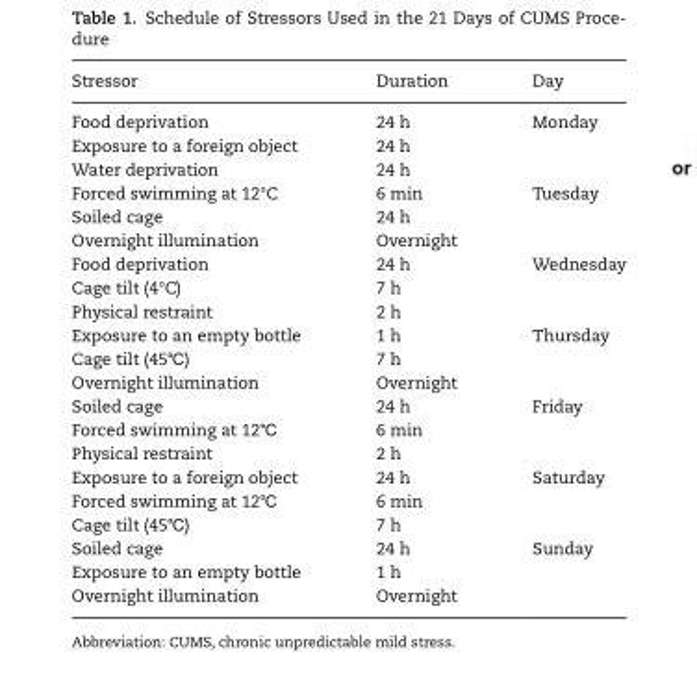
<table><thead><tr><td>Stressor</td><td>Duration</td><td>Day</td></tr></thead><tbody><tr><td>Food deprivation</td><td>24 h</td><td>Monday</td></tr><tr><td>Exposure to a foreign object</td><td>24 h</td><td></td></tr><tr><td>Water deprivation</td><td>24 h</td><td></td></tr><tr><td>Forced swimming at 12°C</td><td>6 min</td><td>Tuesday</td></tr><tr><td>Soiled cage</td><td>24 h</td><td></td></tr><tr><td>Overnight illumination</td><td>Overnight</td><td></td></tr><tr><td>Food deprivation</td><td>24 h</td><td>Wednesday</td></tr><tr><td>Cage tilt (4°C)</td><td>7 h</td><td></td></tr><tr><td>Physical restraint</td><td>2 h</td><td></td></tr><tr><td>Exposure to an empty bottle</td><td>1 h</td><td>Thursday</td></tr><tr><td>Cage tilt (45℃)</td><td>7 h</td><td></td></tr><tr><td>Overnight illumination</td><td>Overnight</td><td></td></tr><tr><td>Soiled cage</td><td>24 h</td><td>Friday</td></tr><tr><td>Forced swimming at 12℃</td><td>6 min</td><td></td></tr><tr><td>Physical restraint</td><td>2 h</td><td></td></tr><tr><td>Exposure to a foreign object</td><td>24 h</td><td>Saturday</td></tr><tr><td>Forced swimming at 12℃</td><td>6 min</td><td></td></tr><tr><td>Cage tilt (45℃)</td><td>7 h</td><td></td></tr><tr><td>Soiled cage</td><td>24 h</td><td>Sunday</td></tr><tr><td>Exposure to an empty bottle</td><td>1 h</td><td></td></tr><tr><td>Overnight illumination</td><td>Overnight</td><td></td></tr></tbody></table>